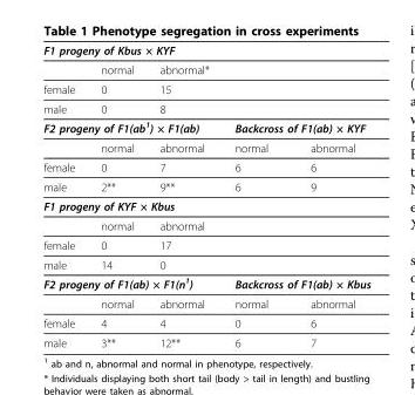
<table><thead><tr><td colspan="5">F1 progeny of Kbus × KYF</td></tr><tr><td></td><td>normal</td><td>abnormal*</td><td></td><td></td></tr></thead><tbody><tr><td>female</td><td>0</td><td>15</td><td></td><td></td></tr><tr><td>male</td><td>0</td><td>8</td><td></td><td></td></tr><tr><td colspan="3">F2 progeny of F1(ab<sup>1</sup>) × F1(ab)</td><td colspan="2">Backcross of F1(ab) × KYF</td></tr><tr><td></td><td>normal</td><td>abnormal</td><td>normal</td><td>abnormal</td></tr><tr><td>female</td><td>0</td><td>7</td><td>6</td><td>6</td></tr><tr><td>male</td><td>2**</td><td>9**</td><td>6</td><td>9</td></tr><tr><td colspan="5">F1 progeny of KYF × Kbus</td></tr><tr><td></td><td>normal</td><td>abnormal</td><td></td><td></td></tr><tr><td>female</td><td>0</td><td>17</td><td></td><td></td></tr><tr><td>male</td><td>14</td><td>0</td><td></td><td></td></tr><tr><td colspan="3">F2 progeny of F1(ab) × F1(n<sup>1</sup>)</td><td colspan="2">Backcross of F1(ab) × Kbus</td></tr><tr><td></td><td>normal</td><td>abnormal</td><td>normal</td><td>abnormal</td></tr><tr><td>female</td><td>4</td><td>4</td><td>0</td><td>6</td></tr><tr><td>male</td><td>3**</td><td>12**</td><td>6</td><td>7</td></tr></tbody></table>